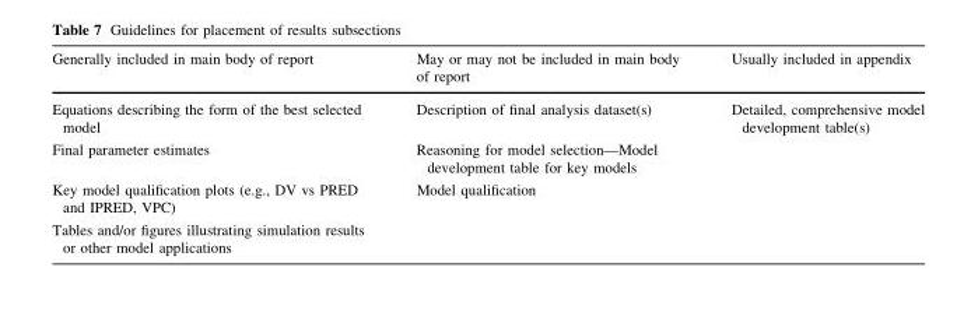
<table><thead><tr><td>Generally included in main body of report</td><td>May or may not be included in main body of report</td><td>Usually included in appendix</td></tr></thead><tbody><tr><td>Equations describing the form of the best selected model</td><td>Description of final analysis dataset(s)</td><td>Detailed, comprehensive model development table(s)</td></tr><tr><td>Final parameter estimates</td><td>Reasoning for model selection—Model development table for key models</td><td></td></tr><tr><td>Key model qualification plots (e.g., DV vs PRED and IPRED, VPC)</td><td>Model qualification</td><td></td></tr><tr><td>Tables and/or figures illustrating simulation results or other model applications</td><td></td><td></td></tr></tbody></table>